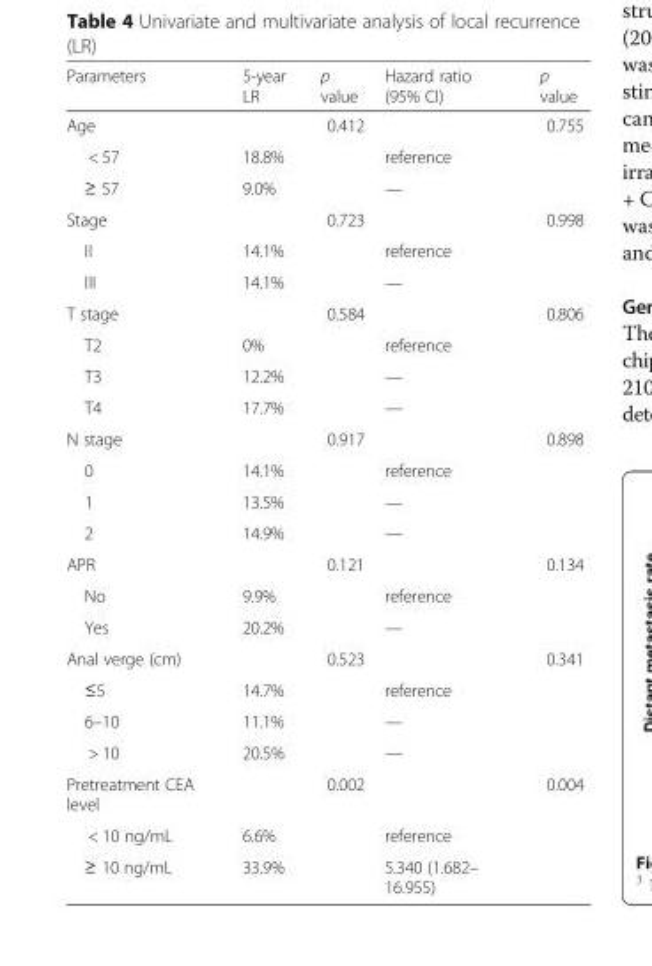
<table><thead><tr><td>Parameters</td><td>5-year LR</td><td>p value</td><td>Hazard ratio (95% CI)</td><td>p value</td></tr></thead><tbody><tr><td>Age</td><td></td><td>0.412</td><td></td><td>0.755</td></tr><tr><td>&lt; 57</td><td>18.8%</td><td></td><td>reference</td><td></td></tr><tr><td>≥ 57</td><td>9.0%</td><td></td><td>—</td><td></td></tr><tr><td>Stage</td><td></td><td>0.723</td><td></td><td>0.998</td></tr><tr><td>II</td><td>14.1%</td><td></td><td>reference</td><td></td></tr><tr><td>III</td><td>14.1%</td><td></td><td>—</td><td></td></tr><tr><td>T stage</td><td></td><td>0.584</td><td></td><td>0.806</td></tr><tr><td>T2</td><td>0%</td><td></td><td>reference</td><td></td></tr><tr><td>T3</td><td>12.2%</td><td></td><td>—</td><td></td></tr><tr><td>T4</td><td>17.7%</td><td></td><td>—</td><td></td></tr><tr><td>N stage</td><td></td><td>0.917</td><td></td><td>0.898</td></tr><tr><td>0</td><td>14.1%</td><td></td><td>reference</td><td></td></tr><tr><td>1</td><td>13.5%</td><td></td><td>—</td><td></td></tr><tr><td>2</td><td>14.9%</td><td></td><td>—</td><td></td></tr><tr><td>APR</td><td></td><td>0.121</td><td></td><td>0.134</td></tr><tr><td>No</td><td>9.9%</td><td></td><td>reference</td><td></td></tr><tr><td>Yes</td><td>20.2%</td><td></td><td>—</td><td></td></tr><tr><td>Anal verge (cm)</td><td></td><td>0.523</td><td></td><td>0.341</td></tr><tr><td>≤5</td><td>14.7%</td><td></td><td>reference</td><td></td></tr><tr><td>6–10</td><td>11.1%</td><td></td><td>—</td><td></td></tr><tr><td>&gt; 10</td><td>20.5%</td><td></td><td>—</td><td></td></tr><tr><td>Pretreatment CEA level</td><td></td><td>0.002</td><td></td><td>0.004</td></tr><tr><td>&lt; 10 ng/mL</td><td>6.6%</td><td></td><td>reference</td><td></td></tr><tr><td>≥ 10 ng/mL</td><td>33.9%</td><td></td><td>5.340 (1.682– 16.955)</td><td></td></tr></tbody></table>